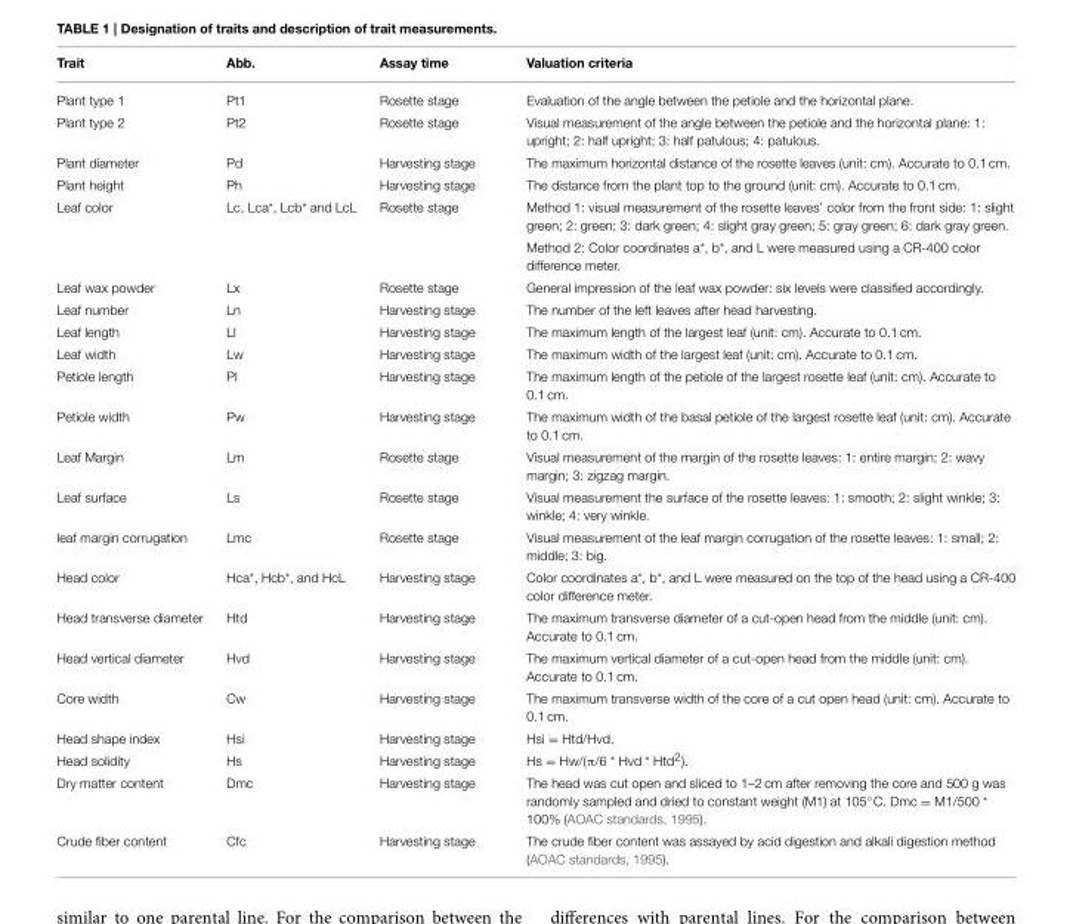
<table><thead><tr><td>Trait</td><td>Abb.</td><td>Assay time</td><td>Valuation criteria</td></tr></thead><tbody><tr><td>Plant type 1</td><td>Pt1</td><td>Rosette stage</td><td>Evaluation of the angle between the petiole and the horizontal plane.</td></tr><tr><td>Plant type 2</td><td>Pt2</td><td>Rosette stage</td><td>Visual measurement of the angle between the petiole and the horizontal plane: 1: upright; 2: half upright; 3: half patulous; 4: patulous.</td></tr><tr><td>Plant diameter</td><td>Pd</td><td>Harvesting stage</td><td>The maximum horizontal distance of the rosette leaves (unit: cm). Accurate to 0.1 cm.</td></tr><tr><td>Plant height</td><td>Ph</td><td>Harvesting stage</td><td>The distance from the plant top to the ground (unit: cm). Accurate to 0.1 cm.</td></tr><tr><td rowspan="2">Leaf color</td><td>Lc, Lca*, Lcb* and LcL</td><td>Rosette stage</td><td>Method 1: visual measurement of the rosette leaves’ color from the front side: 1: slight green; 2: green; 3: dark green; 4: slight gray green; 5: gray green; 6: dark gray green.</td></tr><tr><td></td><td></td><td>Method 2: Color coordinates a*, b*, and L were measured using a CR-400 color difference meter.</td></tr><tr><td>Leaf wax powder</td><td>Lx</td><td>Rosette stage</td><td>General impression of the leaf wax powder: six levels were classified accordingly.</td></tr><tr><td>Leaf number</td><td>Ln</td><td>Harvesting stage</td><td>The number of the left leaves after head harvesting.</td></tr><tr><td>Leaf length</td><td>Ll</td><td>Harvesting stage</td><td>The maximum length of the largest leaf (unit: cm). Accurate to 0.1 cm.</td></tr><tr><td>Leaf width</td><td>Lw</td><td>Harvesting stage</td><td>The maximum width of the largest leaf (unit: cm). Accurate to 0.1 cm.</td></tr><tr><td>Petiole length</td><td>Pl</td><td>Harvesting stage</td><td>The maximum length of the petiole of the largest rosette leaf (unit: cm). Accurate to 0.1 cm.</td></tr><tr><td>Petiole width</td><td>Pw</td><td>Harvesting stage</td><td>The maximum width of the basal petiole of the largest rosette leaf (unit: cm). Accurate to 0.1 cm.</td></tr><tr><td>Leaf Margin</td><td>Lm</td><td>Rosette stage</td><td>Visual measurement of the margin of the rosette leaves: 1: entire margin; 2: wavy margin; 3: zigzag margin.</td></tr><tr><td>Leaf surface</td><td>Ls</td><td>Rosette stage</td><td>Visual measurement the surface of the rosette leaves: 1: smooth; 2: slight winkle; 3: winkle; 4: very winkle.</td></tr><tr><td>leaf margin corrugation</td><td>Lmc</td><td>Rosette stage</td><td>Visual measurement of the leaf margin corrugation of the rosette leaves: 1: small; 2: middle; 3: big.</td></tr><tr><td>Head color</td><td>Hca*, Hcb*, and HcL</td><td>Harvesting stage</td><td>Color coordinates a*, b*, and L were measured on the top of the head using a CR-400 color difference meter.</td></tr><tr><td>Head transverse diameter</td><td>Htd</td><td>Harvesting stage</td><td>The maximum transverse diameter of a cut-open head from the middle (unit: cm). Accurate to 0.1 cm.</td></tr><tr><td>Head vertical diameter</td><td>Hvd</td><td>Harvesting stage</td><td>The maximum vertical diameter of a cut-open head from the middle (unit: cm). Accurate to 0.1 cm.</td></tr><tr><td>Core width</td><td>Cw</td><td>Harvesting stage</td><td>The maximum transverse width of the core of a cut open head (unit: cm). Accurate to 0.1 cm.</td></tr><tr><td>Head shape index</td><td>Hsi</td><td>Harvesting stage</td><td>Hsi = Htd/Hvd.</td></tr><tr><td>Head solidity</td><td>Hs</td><td>Harvesting stage</td><td>Hs = Hw/(π/6 * Hvd * Htd<sup>2</sup>).</td></tr><tr><td>Dry matter content</td><td>Dmc</td><td>Harvesting stage</td><td>The head was cut open and sliced to 1–2 cm after removing the core and 500 g was randomly sampled and dried to constant weight (M1) at 105◦C. Dmc = M1/500 * 100% (AOAC standards, 1995).</td></tr><tr><td>Crude fiber content</td><td>Cfc</td><td>Harvesting stage</td><td>The crude fiber content was assayed by acid digestion and alkali digestion method (AOAC standards, 1995).</td></tr></tbody></table>